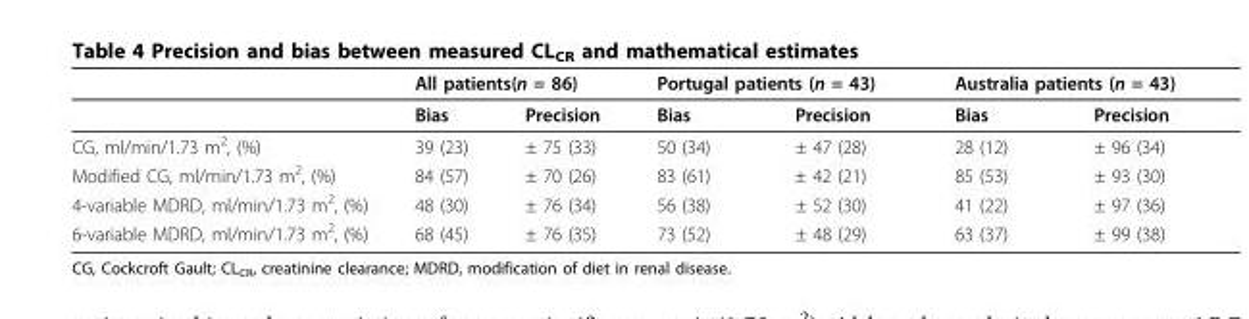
<table><thead><tr><td rowspan="2"></td><td colspan="2">All patients(n = 86)</td><td colspan="2">Portugal patients (n = 43)</td><td colspan="2">Australia patients (n = 43)</td></tr><tr><td>Bias</td><td>Precision</td><td>Bias</td><td>Precision</td><td>Bias</td><td>Precision</td></tr></thead><tbody><tr><td>CG, ml/min/1.73 m<sup>2</sup>, (%)</td><td>39 (23)</td><td>± 75 (33)</td><td>50 (34)</td><td>± 47 (28)</td><td>28 (12)</td><td>± 96 (34)</td></tr><tr><td>Modified CG, ml/min/1.73 m<sup>2</sup>, (%)</td><td>84 (57)</td><td>± 70 (26)</td><td>83 (61)</td><td>± 42 (21)</td><td>85 (53)</td><td>± 93 (30)</td></tr><tr><td>4-variable MDRD, ml/min/1.73 m<sup>2</sup>, (%)</td><td>48 (30)</td><td>± 76 (34)</td><td>56 (38)</td><td>± 52 (30)</td><td>41 (22)</td><td>± 97 (36)</td></tr><tr><td>6-variable MDRD, ml/min/1.73 m<sup>2</sup>, (%)</td><td>68 (45)</td><td>± 76 (35)</td><td>73 (52)</td><td>± 48 (29)</td><td>63 (37)</td><td>± 99 (38)</td></tr></tbody></table>